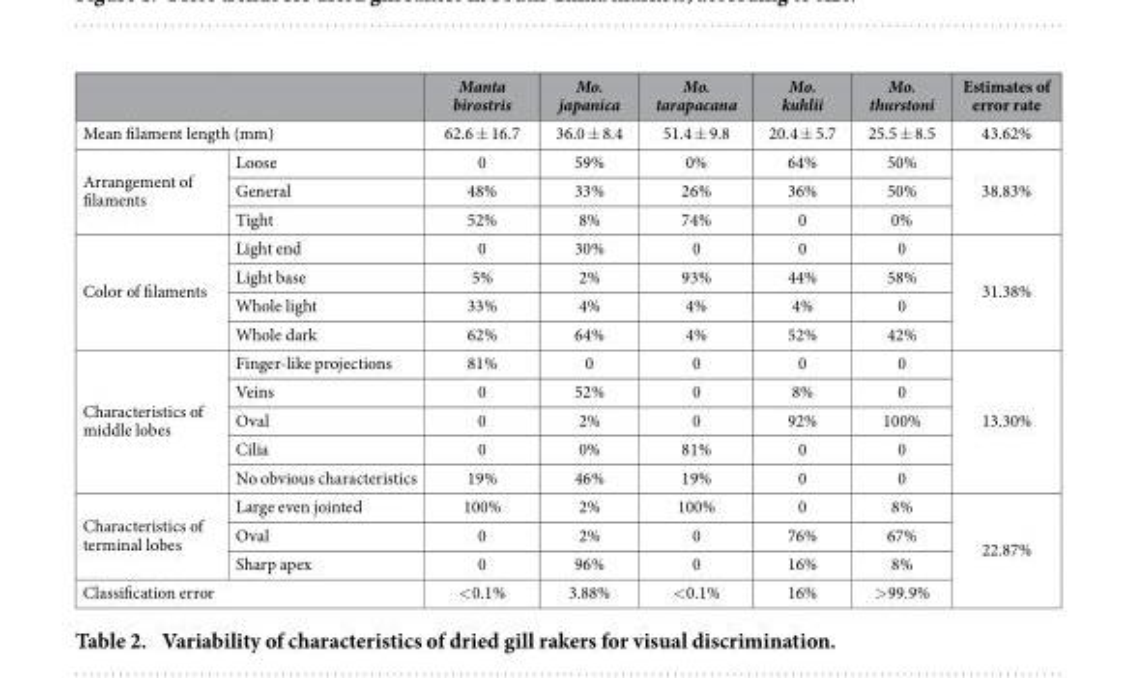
<table><thead><tr><td></td><td></td><td>Manta birostris</td><td>Mo. japanica</td><td>Mo. tarapacana</td><td>Mo. kuhlii</td><td>Mo. thurstoni</td><td>Estimates of error rate</td></tr></thead><tbody><tr><td colspan="2">Mean filament length (mm)</td><td>62.6 ± 16.7</td><td>36.0 ± 8.4</td><td>51.4 ± 9.8</td><td>20.4 ± 5.7</td><td>25.5 ± 8.5</td><td>43.62%</td></tr><tr><td rowspan="3">Arrangement of filaments</td><td>Loose</td><td>0</td><td>59%</td><td>0%</td><td>64%</td><td>50%</td><td rowspan="3">38.83%</td></tr><tr><td>General</td><td>48%</td><td>33%</td><td>26%</td><td>36%</td><td>50%</td></tr><tr><td>Tight</td><td>52%</td><td>8%</td><td>74%</td><td>0</td><td>0%</td></tr><tr><td rowspan="4">Color of filaments</td><td>Light end</td><td>0</td><td>30%</td><td>0</td><td>0</td><td>0</td><td rowspan="4">31.38%</td></tr><tr><td>Light base</td><td>5%</td><td>2%</td><td>93%</td><td>44%</td><td>58%</td></tr><tr><td>Whole light</td><td>33%</td><td>4%</td><td>4%</td><td>4%</td><td>0</td></tr><tr><td>Whole dark</td><td>62%</td><td>64%</td><td>4%</td><td>52%</td><td>42%</td></tr><tr><td rowspan="5">Characteristics of middle lobes</td><td>Finger-like projections</td><td>81%</td><td>0</td><td>0</td><td>0</td><td>0</td><td rowspan="5">13.30%</td></tr><tr><td>Veins</td><td>0</td><td>52%</td><td>0</td><td>8%</td><td>0</td></tr><tr><td>Oval</td><td>0</td><td>2%</td><td>0</td><td>92%</td><td>100%</td></tr><tr><td>Cilia</td><td>0</td><td>0%</td><td>81%</td><td>0</td><td>0</td></tr><tr><td>No obvious characteristics</td><td>19%</td><td>46%</td><td>19%</td><td>0</td><td>0</td></tr><tr><td rowspan="3">Characteristics of terminal lobes</td><td>Large even jointed</td><td>100%</td><td>2%</td><td>100%</td><td>0</td><td>8%</td><td rowspan="4">22.87%</td></tr><tr><td>Oval</td><td>0</td><td>2%</td><td>0</td><td>76%</td><td>67%</td></tr><tr><td>Sharp apex</td><td>0</td><td>96%</td><td>0</td><td>16%</td><td>8%</td></tr><tr><td colspan="2">Classification error</td><td>&lt; 0.1%</td><td>3.88%</td><td>&lt; 0.1%</td><td>16%</td><td>&gt; 99.9%</td></tr></tbody></table>